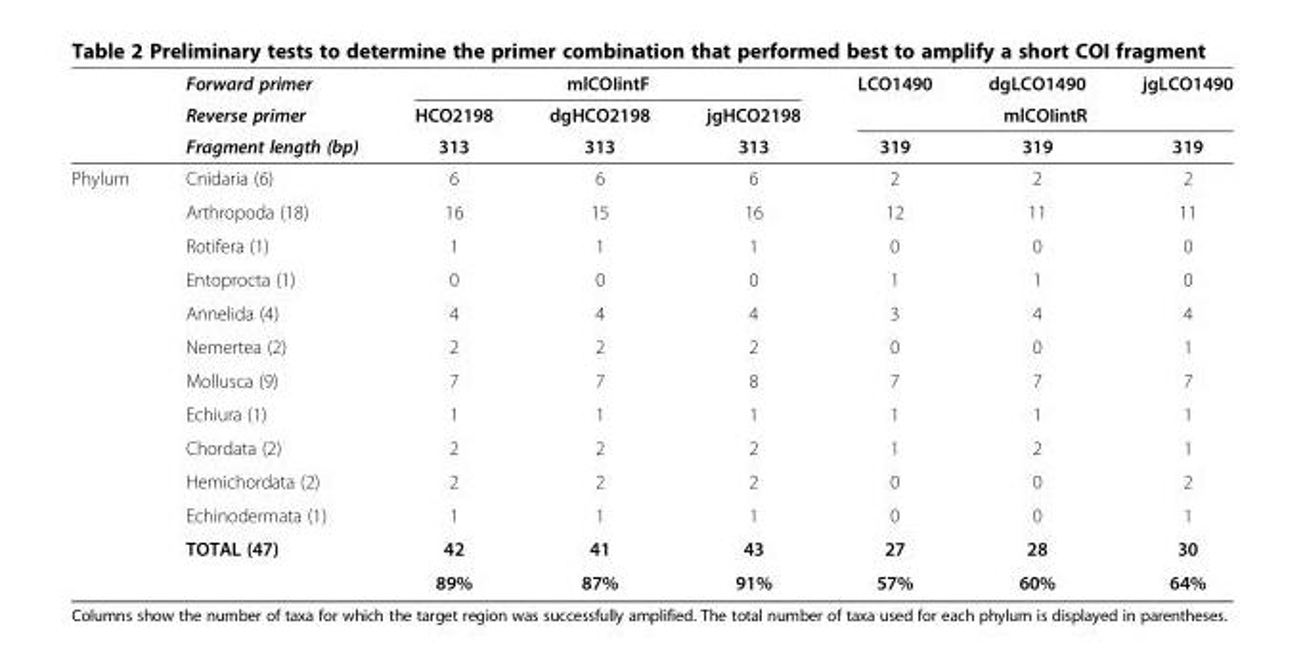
<table><thead><tr><td rowspan="3"></td><td rowspan="3">Forward primer Reverse primer Fragment length (bp)</td><td colspan="3">mlCOIintF</td><td>LCO1490</td><td>dgLCO1490</td><td>jgLCO1490</td></tr><tr><td rowspan="2">HCO2198 313</td><td rowspan="2">dgHCO2198 313</td><td rowspan="2">jgHCO2198 313</td><td colspan="3">mlCOIintR</td></tr><tr><td>319</td><td>319</td><td>319</td></tr></thead><tbody><tr><td rowspan="13">Phylum</td><td>Cnidaria (6)</td><td>6</td><td>6</td><td>6</td><td>2</td><td>2</td><td>2</td></tr><tr><td>Arthropoda (18)</td><td>16</td><td>15</td><td>16</td><td>12</td><td>11</td><td>11</td></tr><tr><td>Rotifera (1)</td><td>1</td><td>1</td><td>1</td><td>0</td><td>0</td><td>0</td></tr><tr><td>Entoprocta (1)</td><td>0</td><td>0</td><td>0</td><td>1</td><td>1</td><td>0</td></tr><tr><td>Annelida (4)</td><td>4</td><td>4</td><td>4</td><td>3</td><td>4</td><td>4</td></tr><tr><td>Nemertea (2)</td><td>2</td><td>2</td><td>2</td><td>0</td><td>0</td><td>1</td></tr><tr><td>Mollusca (9)</td><td>7</td><td>7</td><td>8</td><td>7</td><td>7</td><td>7</td></tr><tr><td>Echiura (1)</td><td>1</td><td>1</td><td>1</td><td>1</td><td>1</td><td>1</td></tr><tr><td>Chordata (2)</td><td>2</td><td>2</td><td>2</td><td>1</td><td>2</td><td>1</td></tr><tr><td>Hemichordata (2)</td><td>2</td><td>2</td><td>2</td><td>0</td><td>0</td><td>2</td></tr><tr><td>Echinodermata (1)</td><td>1</td><td>1</td><td>1</td><td>0</td><td>0</td><td>1</td></tr><tr><td>TOTAL (47)</td><td>42</td><td>41</td><td>43</td><td>27</td><td>28</td><td>30</td></tr><tr><td></td><td>89%</td><td>87%</td><td>91%</td><td>57%</td><td>60%</td><td>64%</td></tr></tbody></table>